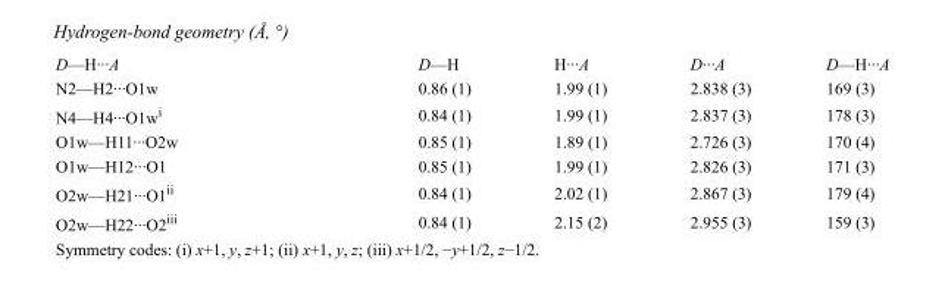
<table><tbody><tr><td>D—H···A</td><td>D—H</td><td>H···A</td><td>D···A</td><td>D—H···A</td></tr><tr><td>N2—H2···O1w</td><td>0.86 (1)</td><td>1.99 (1)</td><td>2.838 (3)</td><td>169 (3)</td></tr><tr><td>N4—H4···O1w<sup>i</sup></td><td>0.84 (1)</td><td>1.99 (1)</td><td>2.837 (3)</td><td>178 (3)</td></tr><tr><td>O1w—H11···O2w</td><td>0.85 (1)</td><td>1.89 (1)</td><td>2.726 (3)</td><td>170 (4)</td></tr><tr><td>O1w—H12···O1</td><td>0.85 (1)</td><td>1.99 (1)</td><td>2.826 (3)</td><td>171 (3)</td></tr><tr><td>O2w—H21···O1<sup>ii</sup></td><td>0.84 (1)</td><td>2.02 (1)</td><td>2.867 (3)</td><td>179 (4)</td></tr><tr><td>O2w—H22···O2<sup>iii</sup></td><td>0.84 (1)</td><td>2.15 (2)</td><td>2.955 (3)</td><td>159 (3)</td></tr></tbody></table>